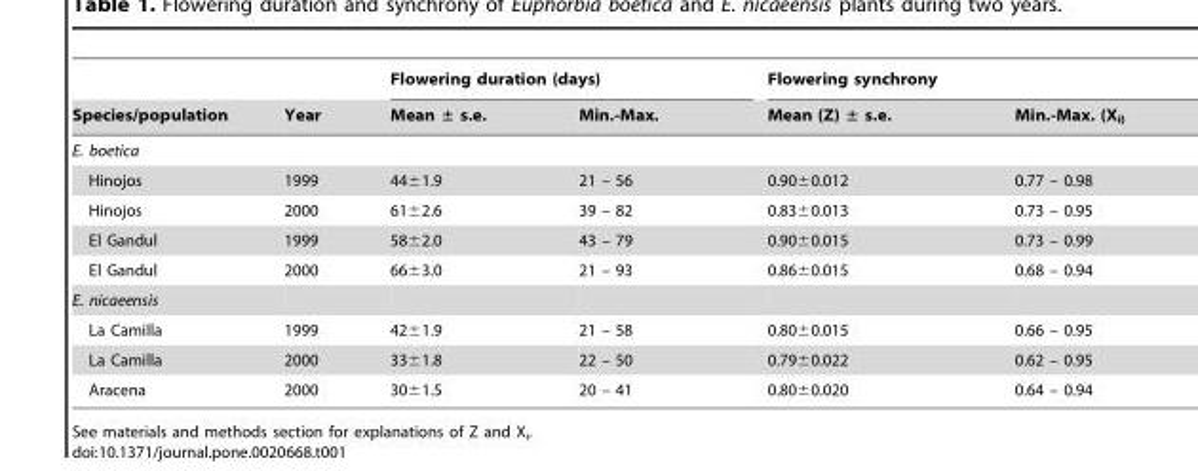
<table><thead><tr><td rowspan="2">Species/population</td><td rowspan="2">Year</td><td colspan="2">Flowering duration (days)</td><td colspan="2">Flowering synchrony</td></tr><tr><td>Mean ± s.e.</td><td>Min.-Max.</td><td>Mean (Z) ± s.e.</td><td>Min.-Max. (X<sub>i)</sub></td></tr></thead><tbody><tr><td colspan="6">E. boetica</td></tr><tr><td>Hinojos</td><td>1999</td><td>44±1.9</td><td>21 – 56</td><td>0.90±0.012</td><td>0.77 – 0.98</td></tr><tr><td>Hinojos</td><td>2000</td><td>61±2.6</td><td>39 – 82</td><td>0.83±0.013</td><td>0.73 – 0.95</td></tr><tr><td>El Gandul</td><td>1999</td><td>58±2.0</td><td>43 – 79</td><td>0.90±0.015</td><td>0.73 – 0.99</td></tr><tr><td>El Gandul</td><td>2000</td><td>66±3.0</td><td>21 – 93</td><td>0.86±0.015</td><td>0.68 – 0.94</td></tr><tr><td colspan="6">E. nicaeensis</td></tr><tr><td>La Camilla</td><td>1999</td><td>42±1.9</td><td>21 – 58</td><td>0.80±0.015</td><td>0.66 – 0.95</td></tr><tr><td>La Camilla</td><td>2000</td><td>33±1.8</td><td>22 – 50</td><td>0.79±0.022</td><td>0.62 – 0.95</td></tr><tr><td>Aracena</td><td>2000</td><td>30±1.5</td><td>20 – 41</td><td>0.80±0.020</td><td>0.64 – 0.94</td></tr></tbody></table>